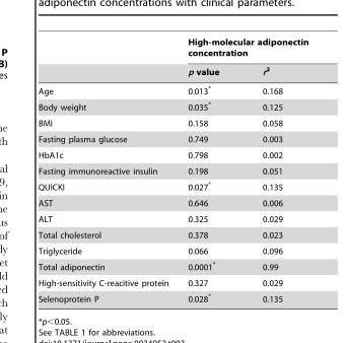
<table><thead><tr><td rowspan="2"></td><td colspan="2">High-molecular adiponectin concentration</td></tr><tr><td>p value</td><td>r<sup>2</sup></td></tr></thead><tbody><tr><td>Age</td><td>0.013*</td><td>0.168</td></tr><tr><td>Body weight</td><td>0.035*</td><td>0.125</td></tr><tr><td>BMI</td><td>0.158</td><td>0.058</td></tr><tr><td>Fasting plasma glucose</td><td>0.749</td><td>0.003</td></tr><tr><td>HbA1c</td><td>0.798</td><td>0.002</td></tr><tr><td>Fasting immunoreactive insulin</td><td>0.198</td><td>0.051</td></tr><tr><td>QUICKI</td><td>0.027*</td><td>0.135</td></tr><tr><td>AST</td><td>0.646</td><td>0.006</td></tr><tr><td>ALT</td><td>0.325</td><td>0.029</td></tr><tr><td>Total cholesterol</td><td>0.378</td><td>0.023</td></tr><tr><td>Triglyceride</td><td>0.066</td><td>0.096</td></tr><tr><td>Total adiponectin</td><td>0.0001*</td><td>0.99</td></tr><tr><td>High-sensitivity C-reacitive protein</td><td>0.327</td><td>0.029</td></tr><tr><td>Selenoprotein P</td><td>0.028*</td><td>0.135</td></tr></tbody></table>